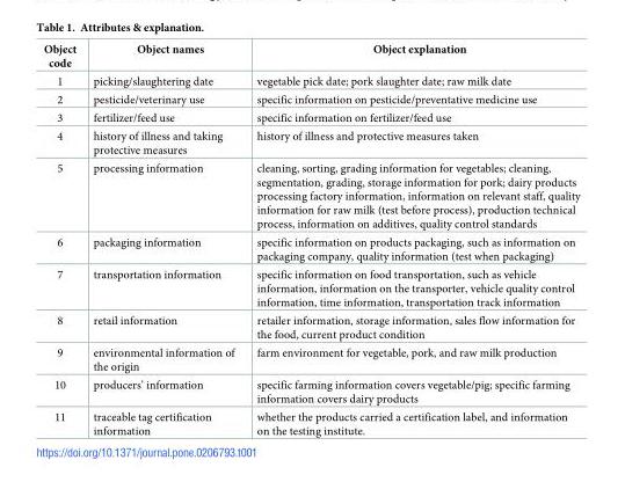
<table><thead><tr><td>Object code</td><td>Object names</td><td>Object explanation</td></tr></thead><tbody><tr><td>1</td><td>picking/slaughtering date</td><td>vegetable pick date; pork slaughter date; raw milk date</td></tr><tr><td>2</td><td>pesticide/veterinary use</td><td>specific information on pesticide/preventative medicine use</td></tr><tr><td>3</td><td>fertilizer/feed use</td><td>specific information on fertilizer/feed use</td></tr><tr><td>4</td><td>history of illness and taking protective measures</td><td>history of illness and protective measures taken</td></tr><tr><td>5</td><td>processing information</td><td>cleaning, sorting, grading information for vegetables; cleaning, segmentation, grading, storage information for pork; dairy products processing factory information, information on relevant staff, quality information for raw milk (test before process), production technical process, information on additives, quality control standards</td></tr><tr><td>6</td><td>packaging information</td><td>specific information on products packaging, such as information on packaging company, quality information (test when packaging)</td></tr><tr><td>7</td><td>transportation information</td><td>specific information on food transportation, such as vehicle information, information on the transporter, vehicle quality control information, time information, transportation track information</td></tr><tr><td>8</td><td>retail information</td><td>retailer information, storage information, sales flow information for the food, current product condition</td></tr><tr><td>9</td><td>environmental information of the origin</td><td>farm environment for vegetable, pork, and raw milk production</td></tr><tr><td>10</td><td>producers’ information</td><td>specific farming information covers vegetable/pig; specific farming information covers dairy products</td></tr><tr><td>11</td><td>traceable tag certification information</td><td>whether the products carried a certification label, and information on the testing institute.</td></tr></tbody></table>